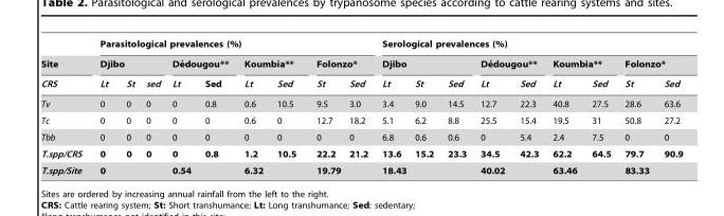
<table><thead><tr><td rowspan="3">Site CRS</td><td colspan="9">Parasitological prevalences (%)</td><td colspan="9">Serological prevalences (%)</td></tr><tr><td colspan="3">Djibo</td><td colspan="2">De´dougou**</td><td colspan="2">Koumbia**</td><td colspan="2">Folonzo*</td><td colspan="3">Djibo</td><td colspan="2">De´dougou**</td><td colspan="2">Koumbia**</td><td colspan="2">Folonzo*</td></tr><tr><td>Lt</td><td>St</td><td>sed</td><td>Lt</td><td>Sed</td><td>Lt</td><td>Sed</td><td>St</td><td>Sed</td><td>Lt</td><td>St</td><td>Sed</td><td>Lt</td><td>Sed</td><td>Lt</td><td>Sed</td><td>St</td><td>Sed</td></tr></thead><tbody><tr><td>Tv</td><td>0</td><td>0</td><td>0</td><td>0</td><td>0.8</td><td>0.6</td><td>10.5</td><td>9.5</td><td>3.0</td><td>3.4</td><td>9.0</td><td>14.5</td><td>12.7</td><td>22.3</td><td>40.8</td><td>27.5</td><td>28.6</td><td>63.6</td></tr><tr><td>Tc</td><td>0</td><td>0</td><td>0</td><td>0</td><td>0</td><td>0.6</td><td>0</td><td>12.7</td><td>18.2</td><td>5.1</td><td>6.2</td><td>8.8</td><td>25.5</td><td>15.4</td><td>19.5</td><td>31</td><td>50.8</td><td>27.2</td></tr><tr><td>Tbb</td><td>0</td><td>0</td><td>0</td><td>0</td><td>0</td><td>0</td><td>0</td><td>0</td><td>0</td><td>6.8</td><td>0.6</td><td>0.6</td><td>0</td><td>5.4</td><td>2.4</td><td>7.5</td><td>0</td><td>0</td></tr><tr><td>T.spp/CRS</td><td>0</td><td>0</td><td>0</td><td>0</td><td>0.8</td><td>1.2</td><td>10.5</td><td>22.2</td><td>21.2</td><td>13.6</td><td>15.2</td><td>23.3</td><td>34.5</td><td>42.3</td><td>62.2</td><td>64.5</td><td>79.7</td><td>90.9</td></tr><tr><td>T.spp/Site</td><td colspan="3">0</td><td colspan="2">0.54</td><td colspan="2">6.32</td><td colspan="2">19.79</td><td colspan="3">18.43</td><td colspan="2">40.02</td><td colspan="2">63.46</td><td colspan="2">83.33</td></tr></tbody></table>